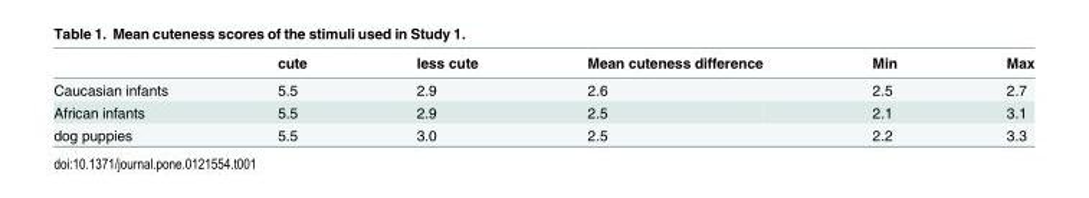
<table><thead><tr><td></td><td>cute</td><td>less cute</td><td>Mean cuteness difference</td><td>Min</td><td>Max</td></tr></thead><tbody><tr><td>Caucasian infants</td><td>5.5</td><td>2.9</td><td>2.6</td><td>2.5</td><td>2.7</td></tr><tr><td>African infants</td><td>5.5</td><td>2.9</td><td>2.5</td><td>2.1</td><td>3.1</td></tr><tr><td>dog puppies</td><td>5.5</td><td>3.0</td><td>2.5</td><td>2.2</td><td>3.3</td></tr></tbody></table>